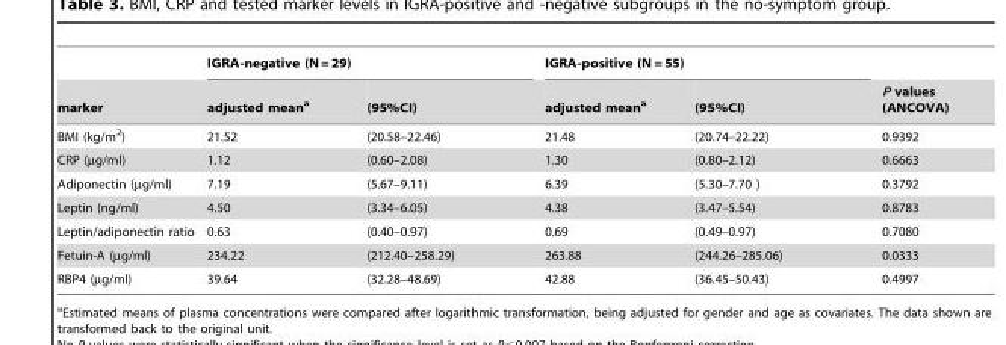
<table><thead><tr><td rowspan="2">marker</td><td colspan="2">IGRA-negative (N = 29)</td><td colspan="2">IGRA-positive (N = 55)</td><td rowspan="2">P values (ANCOVA)</td></tr><tr><td>adjusted mean<sup>a</sup></td><td>(95%CI)</td><td>adjusted mean<sup>a</sup></td><td>(95%CI)</td></tr></thead><tbody><tr><td>BMI (kg/m<sup>2</sup>)</td><td>21.52</td><td>(20.58–22.46)</td><td>21.48</td><td>(20.74–22.22)</td><td>0.9392</td></tr><tr><td>CRP (µg/ml)</td><td>1.12</td><td>(0.60–2.08)</td><td>1.30</td><td>(0.80–2.12)</td><td>0.6663</td></tr><tr><td>Adiponectin (µg/ml)</td><td>7.19</td><td>(5.67–9.11)</td><td>6.39</td><td>(5.30–7.70 )</td><td>0.3792</td></tr><tr><td>Leptin (ng/ml)</td><td>4.50</td><td>(3.34–6.05)</td><td>4.38</td><td>(3.47–5.54)</td><td>0.8783</td></tr><tr><td>Leptin/adiponectin ratio</td><td>0.63</td><td>(0.40–0.97)</td><td>0.69</td><td>(0.49–0.97)</td><td>0.7080</td></tr><tr><td>Fetuin-A (µg/ml)</td><td>234.22</td><td>(212.40–258.29)</td><td>263.88</td><td>(244.26–285.06)</td><td>0.0333</td></tr><tr><td>RBP4 (µg/ml)</td><td>39.64</td><td>(32.28–48.69)</td><td>42.88</td><td>(36.45–50.43)</td><td>0.4997</td></tr></tbody></table>